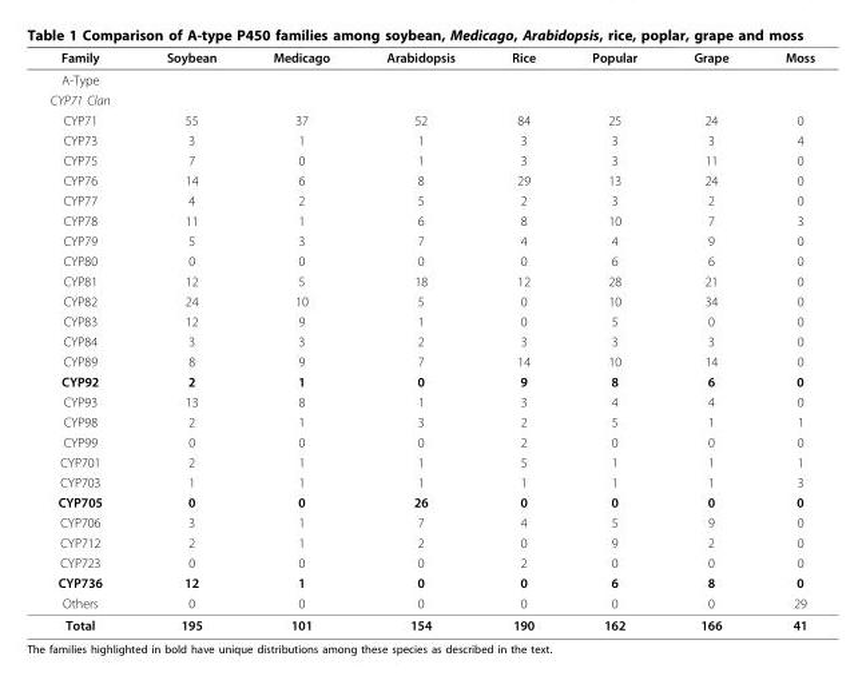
<table><thead><tr><td>Family</td><td>Soybean</td><td>Medicago</td><td>Arabidopsis</td><td>Rice</td><td>Popular</td><td>Grape</td><td>Moss</td></tr></thead><tbody><tr><td colspan="8">A-Type</td></tr><tr><td colspan="8">CYP71 Clan</td></tr><tr><td>CYP71</td><td>55</td><td>37</td><td>52</td><td>84</td><td>25</td><td>24</td><td>0</td></tr><tr><td>CYP73</td><td>3</td><td>1</td><td>1</td><td>3</td><td>3</td><td>3</td><td>4</td></tr><tr><td>CYP75</td><td>7</td><td>0</td><td>1</td><td>3</td><td>3</td><td>11</td><td>0</td></tr><tr><td>CYP76</td><td>14</td><td>6</td><td>8</td><td>29</td><td>13</td><td>24</td><td>0</td></tr><tr><td>CYP77</td><td>4</td><td>2</td><td>5</td><td>2</td><td>3</td><td>2</td><td>0</td></tr><tr><td>CYP78</td><td>11</td><td>1</td><td>6</td><td>8</td><td>10</td><td>7</td><td>3</td></tr><tr><td>CYP79</td><td>5</td><td>3</td><td>7</td><td>4</td><td>4</td><td>9</td><td>0</td></tr><tr><td>CYP80</td><td>0</td><td>0</td><td>0</td><td>0</td><td>6</td><td>6</td><td>0</td></tr><tr><td>CYP81</td><td>12</td><td>5</td><td>18</td><td>12</td><td>28</td><td>21</td><td>0</td></tr><tr><td>CYP82</td><td>24</td><td>10</td><td>5</td><td>0</td><td>10</td><td>34</td><td>0</td></tr><tr><td>CYP83</td><td>12</td><td>9</td><td>1</td><td>0</td><td>5</td><td>0</td><td>0</td></tr><tr><td>CYP84</td><td>3</td><td>3</td><td>2</td><td>3</td><td>3</td><td>3</td><td>0</td></tr><tr><td>CYP89</td><td>8</td><td>9</td><td>7</td><td>14</td><td>10</td><td>14</td><td>0</td></tr><tr><td>CYP92</td><td>2</td><td>1</td><td>0</td><td>9</td><td>8</td><td>6</td><td>0</td></tr><tr><td>CYP93</td><td>13</td><td>8</td><td>1</td><td>3</td><td>4</td><td>4</td><td>0</td></tr><tr><td>CYP98</td><td>2</td><td>1</td><td>3</td><td>2</td><td>5</td><td>1</td><td>1</td></tr><tr><td>CYP99</td><td>0</td><td>0</td><td>0</td><td>2</td><td>0</td><td>0</td><td>0</td></tr><tr><td>CYP701</td><td>2</td><td>1</td><td>1</td><td>5</td><td>1</td><td>1</td><td>1</td></tr><tr><td>CYP703</td><td>1</td><td>1</td><td>1</td><td>1</td><td>1</td><td>1</td><td>3</td></tr><tr><td>CYP705</td><td>0</td><td>0</td><td>26</td><td>0</td><td>0</td><td>0</td><td>0</td></tr><tr><td>CYP706</td><td>3</td><td>1</td><td>7</td><td>4</td><td>5</td><td>9</td><td>0</td></tr><tr><td>CYP712</td><td>2</td><td>1</td><td>2</td><td>0</td><td>9</td><td>2</td><td>0</td></tr><tr><td>CYP723</td><td>0</td><td>0</td><td>0</td><td>2</td><td>0</td><td>0</td><td>0</td></tr><tr><td>CYP736</td><td>12</td><td>1</td><td>0</td><td>0</td><td>6</td><td>8</td><td>0</td></tr><tr><td>Others</td><td>0</td><td>0</td><td>0</td><td>0</td><td>0</td><td>0</td><td>29</td></tr><tr><td>Total</td><td>195</td><td>101</td><td>154</td><td>190</td><td>162</td><td>166</td><td>41</td></tr></tbody></table>